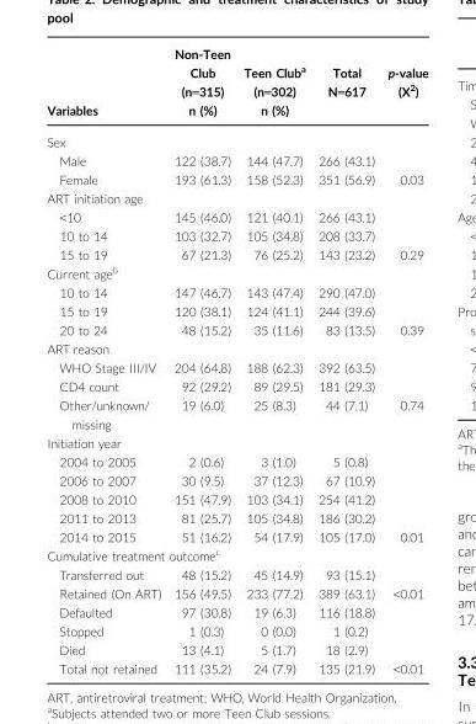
<table><thead><tr><td rowspan="3">Variables</td><td rowspan="3">Non-Teen Club (n=315) n (%)</td><td rowspan="3">Teen Club<sup>a</sup> (n=302) n (%)</td><td rowspan="3">Total N=617</td><td rowspan="3">p-value (X<sup>2</sup>)</td></tr><tr></tr><tr></tr></thead><tbody><tr><td colspan="5">Sex</td></tr><tr><td>Male</td><td>122 (38.7)</td><td>144 (47.7)</td><td>266 (43.1)</td><td></td></tr><tr><td>Female</td><td>193 (61.3)</td><td>158 (52.3)</td><td>351 (56.9)</td><td>0.03</td></tr><tr><td colspan="5">ART initiation age</td></tr><tr><td>&lt;10</td><td>145 (46.0)</td><td>121 (40.1)</td><td>266 (43.1)</td><td></td></tr><tr><td>10 to 14</td><td>103 (32.7)</td><td>105 (34.8)</td><td>208 (33.7)</td><td></td></tr><tr><td>15 to 19</td><td>67 (21.3)</td><td>76 (25.2)</td><td>143 (23.2)</td><td>0.29</td></tr><tr><td colspan="5">Current age<sup>b</sup></td></tr><tr><td>10 to 14</td><td>147 (46.7)</td><td>143 (47.4)</td><td>290 (47.0)</td><td></td></tr><tr><td>15 to 19</td><td>120 (38.1)</td><td>124 (41.1)</td><td>244 (39.6)</td><td></td></tr><tr><td>20 to 24</td><td>48 (15.2)</td><td>35 (11.6)</td><td>83 (13.5)</td><td>0.39</td></tr><tr><td colspan="5">ART reason</td></tr><tr><td>WHO Stage III/IV</td><td>204 (64.8)</td><td>188 (62.3)</td><td>392 (63.5)</td><td></td></tr><tr><td>CD4 count</td><td>92 (29.2)</td><td>89 (29.5)</td><td>181 (29.3)</td><td></td></tr><tr><td>Other/unknown/ missing</td><td>19 (6.0)</td><td>25 (8.3)</td><td>44 (7.1)</td><td>0.74</td></tr><tr><td colspan="5">Initiation year</td></tr><tr><td>2004 to 2005</td><td>2 (0.6)</td><td>3 (1.0)</td><td>5 (0.8)</td><td></td></tr><tr><td>2006 to 2007</td><td>30 (9.5)</td><td>37 (12.3)</td><td>67 (10.9)</td><td></td></tr><tr><td>2008 to 2010</td><td>151 (47.9)</td><td>103 (34.1)</td><td>254 (41.2)</td><td></td></tr><tr><td>2011 to 2013</td><td>81 (25.7)</td><td>105 (34.8)</td><td>186 (30.2)</td><td></td></tr><tr><td>2014 to 2015</td><td>51 (16.2)</td><td>54 (17.9)</td><td>105 (17.0)</td><td>0.01</td></tr><tr><td colspan="5">Cumulative treatment outcome<sup>c</sup></td></tr><tr><td>Transferred out</td><td>48 (15.2)</td><td>45 (14.9)</td><td>93 (15.1)</td><td></td></tr><tr><td>Retained (On ART)</td><td>156 (49.5)</td><td>233 (77.2)</td><td>389 (63.1)</td><td>&lt;0.01</td></tr><tr><td>Defaulted</td><td>97 (30.8)</td><td>19 (6.3)</td><td>116 (18.8)</td><td></td></tr><tr><td>Stopped</td><td>1 (0.3)</td><td>0 (0.0)</td><td>1 (0.2)</td><td></td></tr><tr><td>Died</td><td>13 (4.1)</td><td>5 (1.7)</td><td>18 (2.9)</td><td></td></tr><tr><td>Total not retained</td><td>111 (35.2)</td><td>24 (7.9)</td><td>135 (21.9)</td><td>&lt;0.01</td></tr></tbody></table>